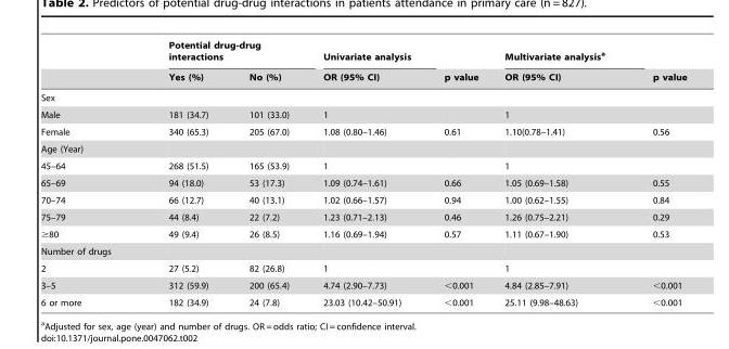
<table><thead><tr><td rowspan="2"></td><td colspan="2">Potential drug-drug interactions</td><td rowspan="2">Univariate analysis OR (95% CI)</td><td rowspan="2">p value</td><td rowspan="2">Multivariate analysis<sup>a</sup> OR (95% CI)</td><td rowspan="2">p value</td></tr><tr><td>Yes (%)</td><td>No (%)</td></tr></thead><tbody><tr><td colspan="7">Sex</td></tr><tr><td>Male</td><td>181 (34.7)</td><td>101 (33.0)</td><td>1</td><td></td><td>1</td><td></td></tr><tr><td>Female</td><td>340 (65.3)</td><td>205 (67.0)</td><td>1.08 (0.80–1.46)</td><td>0.61</td><td>1.10(0.78–1.41)</td><td>0.56</td></tr><tr><td colspan="7">Age (Year)</td></tr><tr><td>45–64</td><td>268 (51.5)</td><td>165 (53.9)</td><td>1</td><td></td><td>1</td><td></td></tr><tr><td>65–69</td><td>94 (18.0)</td><td>53 (17.3)</td><td>1.09 (0.74–1.61)</td><td>0.66</td><td>1.05 (0.69–1.58)</td><td>0.55</td></tr><tr><td>70–74</td><td>66 (12.7)</td><td>40 (13.1)</td><td>1.02 (0.66–1.57)</td><td>0.94</td><td>1.00 (0.62–1.55)</td><td>0.84</td></tr><tr><td>75–79</td><td>44 (8.4)</td><td>22 (7.2)</td><td>1.23 (0.71–2.13)</td><td>0.46</td><td>1.26 (0.75–2.21)</td><td>0.29</td></tr><tr><td>≥80</td><td>49 (9.4)</td><td>26 (8.5)</td><td>1.16 (0.69–1.94)</td><td>0.57</td><td>1.11 (0.67–1.90)</td><td>0.53</td></tr><tr><td colspan="7">Number of drugs</td></tr><tr><td>2</td><td>27 (5.2)</td><td>82 (26.8)</td><td>1</td><td></td><td>1</td><td></td></tr><tr><td>3–5</td><td>312 (59.9)</td><td>200 (65.4)</td><td>4.74 (2.90–7.73)</td><td>&lt;0.001</td><td>4.84 (2.85–7.91)</td><td>&lt;0.001</td></tr><tr><td>6 or more</td><td>182 (34.9)</td><td>24 (7.8)</td><td>23.03 (10.42–50.91)</td><td>&lt;0.001</td><td>25.11 (9.98–48.63)</td><td>&lt;0.001</td></tr></tbody></table>